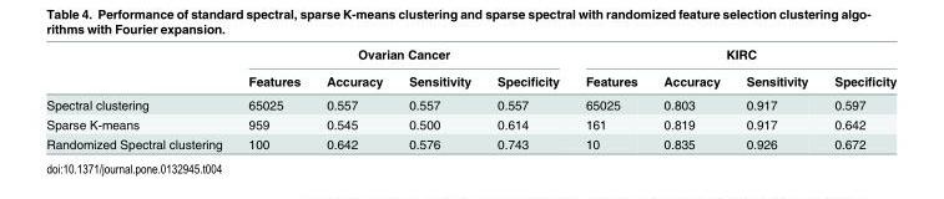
<table><thead><tr><td rowspan="2"></td><td colspan="4">Ovarian Cancer</td><td colspan="4">KIRC</td></tr><tr><td>Features</td><td>Accuracy</td><td>Sensitivity</td><td>Specificity</td><td>Features</td><td>Accuracy</td><td>Sensitivity</td><td>Specificity</td></tr></thead><tbody><tr><td>Spectral clustering</td><td>65025</td><td>0.557</td><td>0.557</td><td>0.557</td><td>65025</td><td>0.803</td><td>0.917</td><td>0.597</td></tr><tr><td>Sparse K-means</td><td>959</td><td>0.545</td><td>0.500</td><td>0.614</td><td>161</td><td>0.819</td><td>0.917</td><td>0.642</td></tr><tr><td>Randomized Spectral clustering</td><td>100</td><td>0.642</td><td>0.576</td><td>0.743</td><td>10</td><td>0.835</td><td>0.926</td><td>0.672</td></tr></tbody></table>